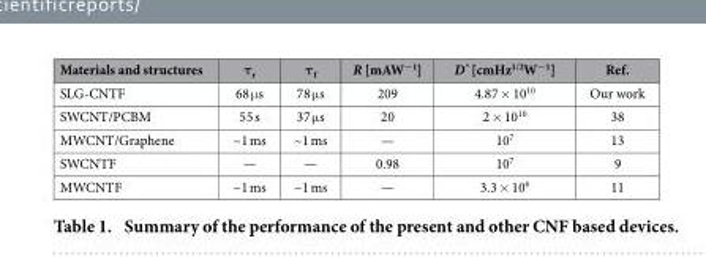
<table><thead><tr><td>Materials and structures</td><td>τ<sub>r</sub></td><td>τ<sub>f</sub></td><td>R [mAW<sup>−1</sup>]</td><td>D* [cmHz<sup>1/2</sup>W<sup>−1</sup>]</td><td>Ref.</td></tr></thead><tbody><tr><td>SLG-CNTF</td><td>68 μ s</td><td>78 μ s</td><td>209</td><td>4.87 × 10<sup>10</sup></td><td>Our work</td></tr><tr><td>SWCNT/PCBM</td><td>55 s</td><td>37 μ s</td><td>20</td><td>2 × 10<sup>10</sup></td><td>38</td></tr><tr><td>MWCNT/Graphene</td><td>~1 ms</td><td>~1 ms</td><td>—</td><td>10<sup>7</sup></td><td>13</td></tr><tr><td>SWCNTF</td><td>—</td><td>—</td><td>0.98</td><td>10<sup>7</sup></td><td>9</td></tr><tr><td>MWCNTF</td><td>~1 ms</td><td>~1 ms</td><td>—</td><td>3.3 × 10<sup>6</sup></td><td>11</td></tr></tbody></table>